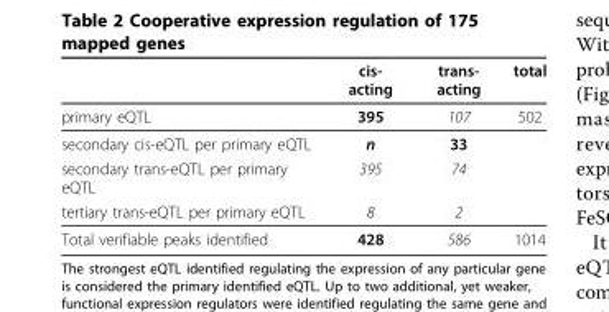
<table><thead><tr><td></td><td>cis- acting</td><td>trans- acting</td><td>total</td></tr></thead><tbody><tr><td>primary eQTL</td><td>395</td><td>107</td><td>502</td></tr><tr><td>secondary cis-eQTL per primary eQTL</td><td>n</td><td>33</td><td></td></tr><tr><td>secondary trans-eQTL per primary eQTL</td><td>395</td><td>74</td><td></td></tr><tr><td>tertiary trans-eQTL per primary eQTL</td><td>8</td><td>2</td><td></td></tr><tr><td>Total verifiable peaks identified</td><td>428</td><td>586</td><td>1014</td></tr></tbody></table>